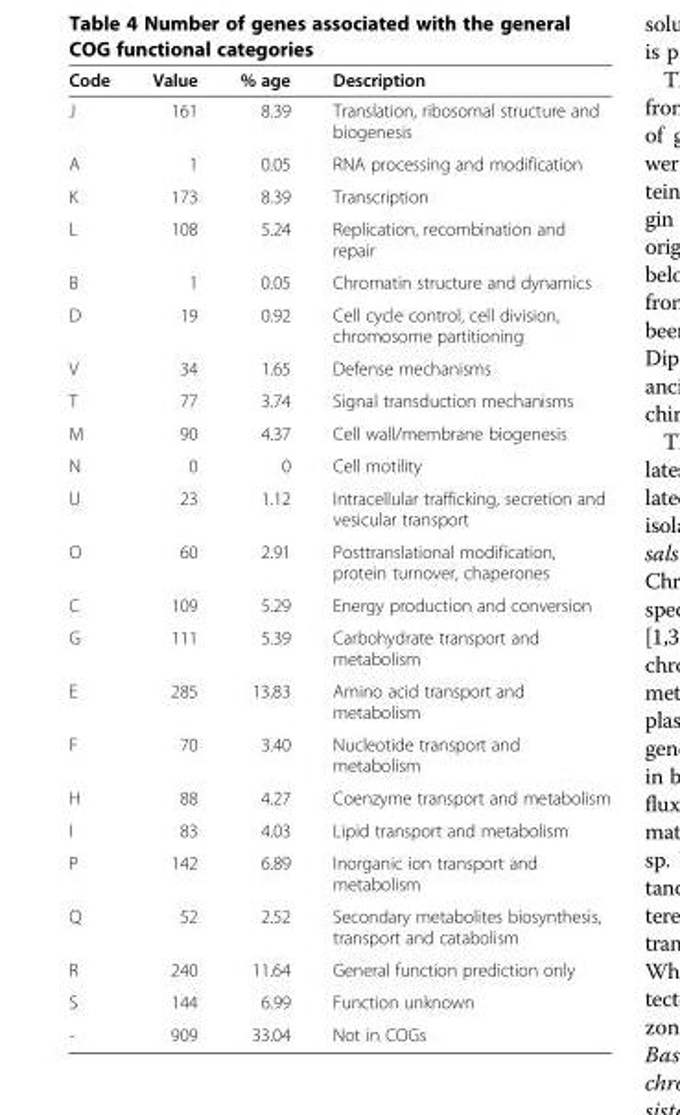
<table><thead><tr><td>Code</td><td>Value</td><td>% age</td><td>Description</td></tr></thead><tbody><tr><td>J</td><td>161</td><td>8.39</td><td>Translation, ribosomal structure and biogenesis</td></tr><tr><td>A</td><td>1</td><td>0.05</td><td>RNA processing and modification</td></tr><tr><td>K</td><td>173</td><td>8.39</td><td>Transcription</td></tr><tr><td>L</td><td>108</td><td>5.24</td><td>Replication, recombination and repair</td></tr><tr><td>B</td><td>1</td><td>0.05</td><td>Chromatin structure and dynamics</td></tr><tr><td>D</td><td>19</td><td>0.92</td><td>Cell cycle control, cell division, chromosome partitioning</td></tr><tr><td>V</td><td>34</td><td>1.65</td><td>Defense mechanisms</td></tr><tr><td>T</td><td>77</td><td>3.74</td><td>Signal transduction mechanisms</td></tr><tr><td>M</td><td>90</td><td>4.37</td><td>Cell wall/membrane biogenesis</td></tr><tr><td>N</td><td>0</td><td>0</td><td>Cell motility</td></tr><tr><td>U</td><td>23</td><td>1.12</td><td>Intracellular trafficking, secretion and vesicular transport</td></tr><tr><td>O</td><td>60</td><td>2.91</td><td>Posttranslational modification, protein turnover, chaperones</td></tr><tr><td>C</td><td>109</td><td>5.29</td><td>Energy production and conversion</td></tr><tr><td>G</td><td>111</td><td>5.39</td><td>Carbohydrate transport and metabolism</td></tr><tr><td>E</td><td>285</td><td>13.83</td><td>Amino acid transport and metabolism</td></tr><tr><td>F</td><td>70</td><td>3.40</td><td>Nucleotide transport and metabolism</td></tr><tr><td>H</td><td>88</td><td>4.27</td><td>Coenzyme transport and metabolism</td></tr><tr><td>I</td><td>83</td><td>4.03</td><td>Lipid transport and metabolism</td></tr><tr><td>P</td><td>142</td><td>6.89</td><td>Inorganic ion transport and metabolism</td></tr><tr><td>Q</td><td>52</td><td>2.52</td><td>Secondary metabolites biosynthesis, transport and catabolism</td></tr><tr><td>R</td><td>240</td><td>11.64</td><td>General function prediction only</td></tr><tr><td>S</td><td>144</td><td>6.99</td><td>Function unknown</td></tr><tr><td>-</td><td>909</td><td>33.04</td><td>Not in COGs</td></tr></tbody></table>